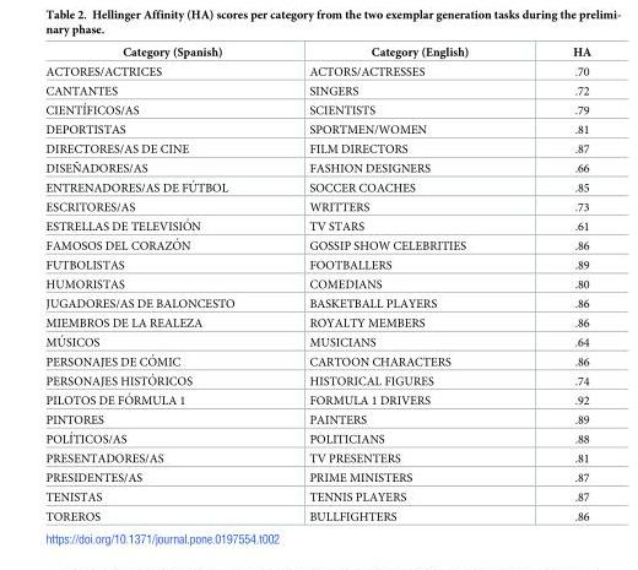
<table><thead><tr><td>Category (Spanish)</td><td>Category (English)</td><td>HA</td></tr></thead><tbody><tr><td>ACTORES/ACTRICES</td><td>ACTORS/ACTRESSES</td><td>.70</td></tr><tr><td>CANTANTES</td><td>SINGERS</td><td>.72</td></tr><tr><td>CIENTI´FICOS/AS</td><td>SCIENTISTS</td><td>.79</td></tr><tr><td>DEPORTISTAS</td><td>SPORTMEN/WOMEN</td><td>.81</td></tr><tr><td>DIRECTORES/AS DE CINE</td><td>FILM DIRECTORS</td><td>.87</td></tr><tr><td>DISEN˜ ADORES/AS</td><td>FASHION DESIGNERS</td><td>.66</td></tr><tr><td>ENTRENADORES/AS DE FU´ TBOL</td><td>SOCCER COACHES</td><td>.85</td></tr><tr><td>ESCRITORES/AS</td><td>WRITTERS</td><td>.73</td></tr><tr><td>ESTRELLAS DE TELEVISIO´ N</td><td>TV STARS</td><td>.61</td></tr><tr><td>FAMOSOS DEL CORAZO´ N</td><td>GOSSIP SHOW CELEBRITIES</td><td>.86</td></tr><tr><td>FUTBOLISTAS</td><td>FOOTBALLERS</td><td>.89</td></tr><tr><td>HUMORISTAS</td><td>COMEDIANS</td><td>.80</td></tr><tr><td>JUGADORES/AS DE BALONCESTO</td><td>BASKETBALL PLAYERS</td><td>.86</td></tr><tr><td>MIEMBROS DE LA REALEZA</td><td>ROYALTY MEMBERS</td><td>.86</td></tr><tr><td>MU´ SICOS</td><td>MUSICIANS</td><td>.64</td></tr><tr><td>PERSONAJES DE CO´ MIC</td><td>CARTOON CHARACTERS</td><td>.86</td></tr><tr><td>PERSONAJES HISTO´ RICOS</td><td>HISTORICAL FIGURES</td><td>.74</td></tr><tr><td>PILOTOS DE FO´ RMULA 1</td><td>FORMULA 1 DRIVERS</td><td>.92</td></tr><tr><td>PINTORES</td><td>PAINTERS</td><td>.89</td></tr><tr><td>POLI´TICOS/AS</td><td>POLITICIANS</td><td>.88</td></tr><tr><td>PRESENTADORES/AS</td><td>TV PRESENTERS</td><td>.81</td></tr><tr><td>PRESIDENTES/AS</td><td>PRIME MINISTERS</td><td>.87</td></tr><tr><td>TENISTAS</td><td>TENNIS PLAYERS</td><td>.87</td></tr><tr><td>TOREROS</td><td>BULLFIGHTERS</td><td>.86</td></tr></tbody></table>